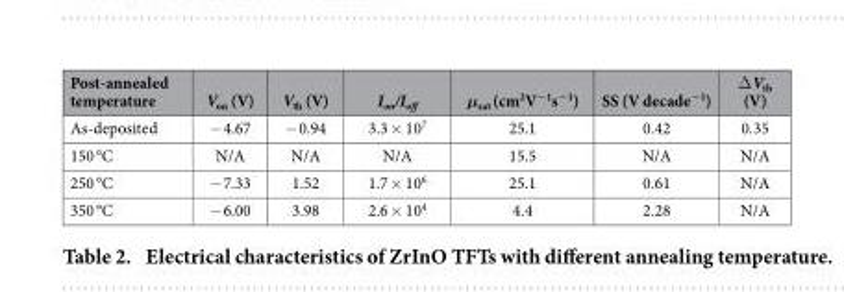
<table><thead><tr><td>Post-annealed temperature</td><td>V<sub>on</sub> (V)</td><td>V<sub>th</sub> (V)</td><td>I<sub>on</sub>/I<sub>off</sub></td><td>μ<sub>sat</sub> (cm<sup>2</sup>V<sup>−1</sup>s<sup>−1</sup>)</td><td>SS (V decade<sup>−1</sup>)</td><td>Δ V<sub>th</sub> (V)</td></tr></thead><tbody><tr><td>As-deposited</td><td>− 4.67</td><td>− 0.94</td><td>3.3 × 10<sup>7</sup></td><td>25.1</td><td>0.42</td><td>0.35</td></tr><tr><td>150 °C</td><td>N/A</td><td>N/A</td><td>N/A</td><td>15.5</td><td>N/A</td><td>N/A</td></tr><tr><td>250 °C</td><td>− 7.33</td><td>1.52</td><td>1.7 × 10<sup>6</sup></td><td>25.1</td><td>0.61</td><td>N/A</td></tr><tr><td>350 °C</td><td>− 6.00</td><td>3.98</td><td>2.6 × 10<sup>4</sup></td><td>4.4</td><td>2.28</td><td>N/A</td></tr></tbody></table>